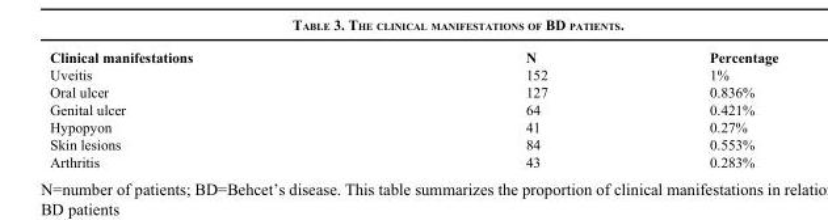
<table><thead><tr><td>Clinical manifestations</td><td>N</td><td>Percentage</td></tr></thead><tbody><tr><td>Uveitis</td><td>152</td><td>1%</td></tr><tr><td>Oral ulcer</td><td>127</td><td>0.836%</td></tr><tr><td>Genital ulcer</td><td>64</td><td>0.421%</td></tr><tr><td>Hypopyon</td><td>41</td><td>0.27%</td></tr><tr><td>Skin lesions</td><td>84</td><td>0.553%</td></tr><tr><td>Arthritis</td><td>43</td><td>0.283%</td></tr></tbody></table>